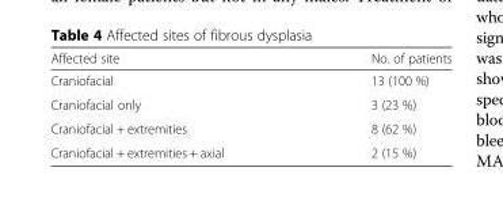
<table><thead><tr><td>Affected site</td><td>No. of patients</td></tr></thead><tbody><tr><td>Craniofacial</td><td>13 (100 %)</td></tr><tr><td>Craniofacial only</td><td>3 (23 %)</td></tr><tr><td>Craniofacial + extremities</td><td>8 (62 %)</td></tr><tr><td>Craniofacial + extremities + axial</td><td>2 (15 %)</td></tr></tbody></table>